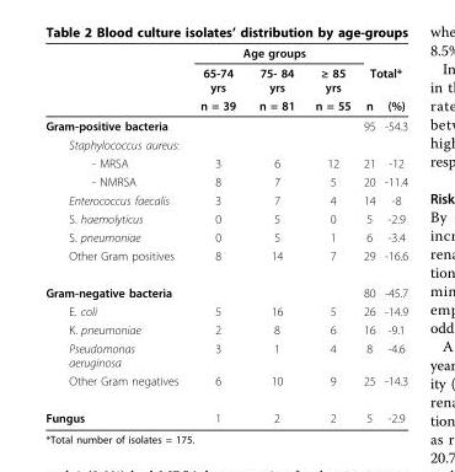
<table><thead><tr><td rowspan="3"></td><td colspan="3">Age groups</td><td></td><td></td></tr><tr><td rowspan="2">65-74 yrs n = 39</td><td rowspan="2">75- 84 yrs n = 81</td><td rowspan="2">≥ 85 yrs n = 55</td><td colspan="2">Total*</td></tr><tr><td>n</td><td>(%)</td></tr></thead><tbody><tr><td>Gram-positive bacteria</td><td></td><td></td><td></td><td>95</td><td>-54.3</td></tr><tr><td colspan="6">Staphylococcus aureus:</td></tr><tr><td>- MRSA</td><td>3</td><td>6</td><td>12</td><td>21</td><td>-12</td></tr><tr><td>- NMRSA</td><td>8</td><td>7</td><td>5</td><td>20</td><td>-11.4</td></tr><tr><td>Enterococcus faecalis</td><td>3</td><td>7</td><td>4</td><td>14</td><td>-8</td></tr><tr><td>S. haemolyticus</td><td>0</td><td>5</td><td>0</td><td>5</td><td>-2.9</td></tr><tr><td>S. pneumoniae</td><td>0</td><td>5</td><td>1</td><td>6</td><td>-3.4</td></tr><tr><td>Other Gram positives</td><td>8</td><td>14</td><td>7</td><td>29</td><td>-16.6</td></tr><tr><td>Gram-negative bacteria</td><td></td><td></td><td></td><td>80</td><td>-45.7</td></tr><tr><td>E. coli</td><td>5</td><td>16</td><td>5</td><td>26</td><td>-14.9</td></tr><tr><td>K. pneumoniae</td><td>2</td><td>8</td><td>6</td><td>16</td><td>-9.1</td></tr><tr><td>Pseudomonas aeruginosa</td><td>3</td><td>1</td><td>4</td><td>8</td><td>-4.6</td></tr><tr><td>Other Gram negatives</td><td>6</td><td>10</td><td>9</td><td>25</td><td>-14.3</td></tr><tr><td>Fungus</td><td>1</td><td>2</td><td>2</td><td>5</td><td>-2.9</td></tr></tbody></table>